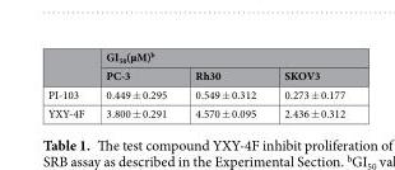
<table><thead><tr><td rowspan="2"></td><td colspan="3">GI<sub>50</sub>(µM)<sup>b</sup></td></tr><tr><td>PC-3</td><td>Rh30</td><td>SKOV3</td></tr></thead><tbody><tr><td>PI-103</td><td>0.449 ± 0.295</td><td>0.549 ± 0.312</td><td>0.273 ± 0.177</td></tr><tr><td>YXY-4F</td><td>3.800 ± 0.291</td><td>4.570 ± 0.095</td><td>2.436 ± 0.312</td></tr></tbody></table>